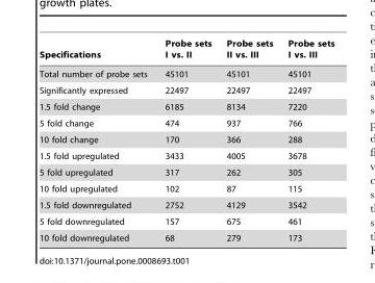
<table><thead><tr><td>Specifications</td><td>Probe sets I vs. II</td><td>Probe sets II vs. III</td><td>Probe sets I vs. III</td></tr></thead><tbody><tr><td>Total number of probe sets</td><td>45101</td><td>45101</td><td>45101</td></tr><tr><td>Significantly expressed</td><td>22497</td><td>22497</td><td>22497</td></tr><tr><td>1.5 fold change</td><td>6185</td><td>8134</td><td>7220</td></tr><tr><td>5 fold change</td><td>474</td><td>937</td><td>766</td></tr><tr><td>10 fold change</td><td>170</td><td>366</td><td>288</td></tr><tr><td>1.5 fold upregulated</td><td>3433</td><td>4005</td><td>3678</td></tr><tr><td>5 fold upregulated</td><td>317</td><td>262</td><td>305</td></tr><tr><td>10 fold upregulated</td><td>102</td><td>87</td><td>115</td></tr><tr><td>1.5 fold downregulated</td><td>2752</td><td>4129</td><td>3542</td></tr><tr><td>5 fold downregulated</td><td>157</td><td>675</td><td>461</td></tr><tr><td>10 fold downregulated</td><td>68</td><td>279</td><td>173</td></tr></tbody></table>